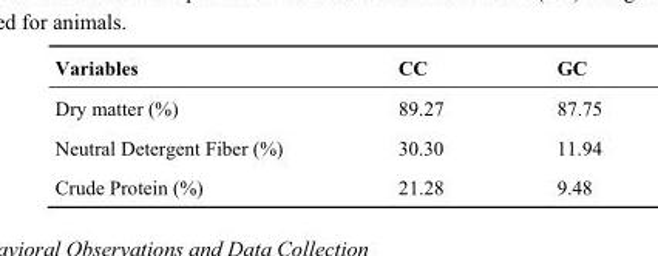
<table><thead><tr><td>Variables</td><td>CC</td><td>GC</td></tr></thead><tbody><tr><td>Dry matter (%)</td><td>89.27</td><td>87.75</td></tr><tr><td>Neutral Detergent Fiber (%)</td><td>30.30</td><td>11.94</td></tr><tr><td>Crude Protein (%)</td><td>21.28</td><td>9.48</td></tr></tbody></table>